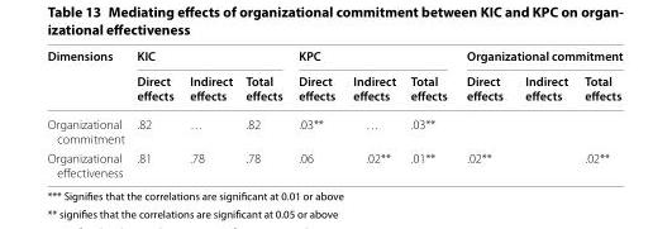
<table><thead><tr><td rowspan="2">Dimensions</td><td colspan="3">KIC</td><td colspan="3">KPC</td><td colspan="3">Organizational commitment</td></tr><tr><td>Direct effects</td><td>Indirect effects</td><td>Total effects</td><td>Direct effects</td><td>Indirect effects</td><td>Total effects</td><td>Direct effects</td><td>Indirect effects</td><td>Total effects</td></tr></thead><tbody><tr><td>Organizational commitment</td><td>.82</td><td>…</td><td>.82</td><td>.03**</td><td>…</td><td>.03**</td><td></td><td></td><td></td></tr><tr><td>Organizational effectiveness</td><td>.81</td><td>.78</td><td>.78</td><td>.06</td><td>.02**</td><td>.01**</td><td>.02**</td><td></td><td>.02**</td></tr></tbody></table>